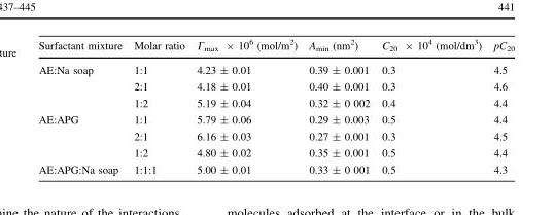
<table><thead><tr><td>Surfactant mixture</td><td>Molar ratio</td><td>Γ<sub>max</sub> × 10<sup>6</sup> (mol/m<sup>2</sup>)</td><td>A<sub>min</sub> (nm<sup>2</sup>)</td><td>C<sub>20</sub> × 10<sup>4</sup> (mol/dm<sup>3</sup>)</td><td>pC<sub>20</sub></td></tr></thead><tbody><tr><td rowspan="3">AE:Na soap</td><td>1:1</td><td>4.23 ± 0.01</td><td>0.39 ± 0.001</td><td>0.3</td><td>4.5</td></tr><tr><td>2:1</td><td>4.18 ± 0.01</td><td>0.40 ± 0.001</td><td>0.3</td><td>4.6</td></tr><tr><td>1:2</td><td>5.19 ± 0.04</td><td>0.32 ± 0 002</td><td>0.4</td><td>4.4</td></tr><tr><td rowspan="3">AE:APG</td><td>1:1</td><td>5.79 ± 0.06</td><td>0.29 ± 0.003</td><td>0.5</td><td>4.4</td></tr><tr><td>2:1</td><td>6.16 ± 0.03</td><td>0.27 ± 0.001</td><td>0.3</td><td>4.5</td></tr><tr><td>1:2</td><td>4.80 ± 0.02</td><td>0.35 ± 0.001</td><td>0.5</td><td>4.4</td></tr><tr><td>AE:APG:Na soap</td><td>1:1:1</td><td>5.00 ± 0.01</td><td>0.33 ± 0 001</td><td>0.5</td><td>4.3</td></tr></tbody></table>